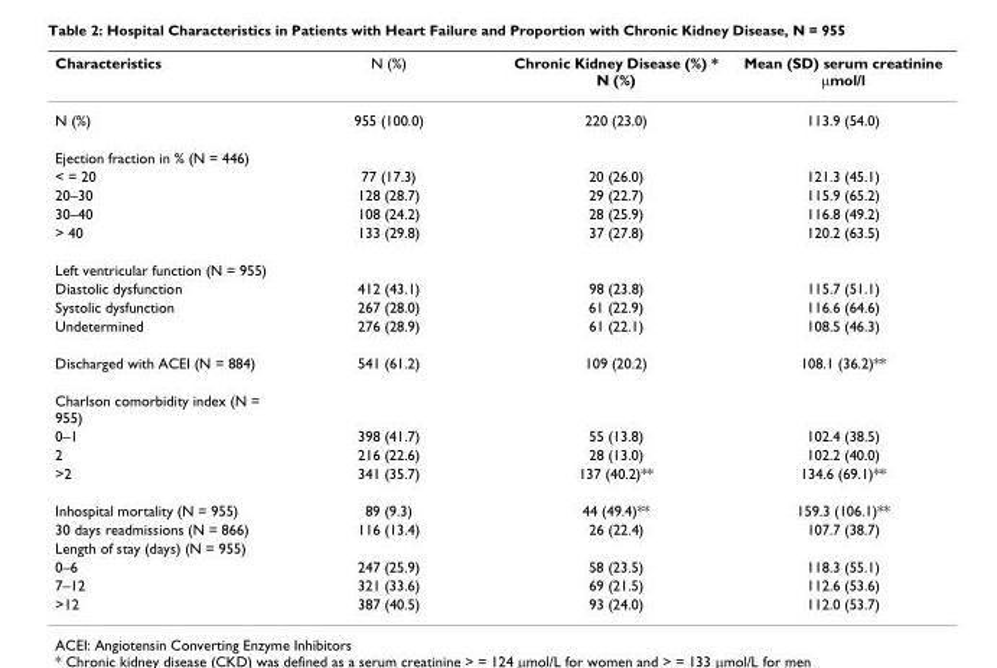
<table><thead><tr><td>Characteristics</td><td>N (%)</td><td>Chronic Kidney Disease (%) * N (%)</td><td>Mean (SD) serum creatinine µmol/l</td></tr></thead><tbody><tr><td>N (%)</td><td>955 (100.0)</td><td>220 (23.0)</td><td>113.9 (54.0)</td></tr><tr><td colspan="4">Ejection fraction in % (N = 446)</td></tr><tr><td>&lt; = 20</td><td>77 (17.3)</td><td>20 (26.0)</td><td>121.3 (45.1)</td></tr><tr><td>20–30</td><td>128 (28.7)</td><td>29 (22.7)</td><td>115.9 (65.2)</td></tr><tr><td>30–40</td><td>108 (24.2)</td><td>28 (25.9)</td><td>116.8 (49.2)</td></tr><tr><td>&gt; 40</td><td>133 (29.8)</td><td>37 (27.8)</td><td>120.2 (63.5)</td></tr><tr><td colspan="4">Left ventricular function (N = 955)</td></tr><tr><td>Diastolic dysfunction</td><td>412 (43.1)</td><td>98 (23.8)</td><td>115.7 (51.1)</td></tr><tr><td>Systolic dysfunction</td><td>267 (28.0)</td><td>61 (22.9)</td><td>116.6 (64.6)</td></tr><tr><td>Undetermined</td><td>276 (28.9)</td><td>61 (22.1)</td><td>108.5 (46.3)</td></tr><tr><td>Discharged with ACEI (N = 884)</td><td>541 (61.2)</td><td>109 (20.2)</td><td>108.1 (36.2)**</td></tr><tr><td colspan="4">Charlson comorbidity index (N = 955)</td></tr><tr><td>0–1</td><td>398 (41.7)</td><td>55 (13.8)</td><td>102.4 (38.5)</td></tr><tr><td>2</td><td>216 (22.6)</td><td>28 (13.0)</td><td>102.2 (40.0)</td></tr><tr><td>&gt;2</td><td>341 (35.7)</td><td>137 (40.2)**</td><td>134.6 (69.1)**</td></tr><tr><td>Inhospital mortality (N = 955)</td><td>89 (9.3)</td><td>44 (49.4)**</td><td>159.3 (106.1)**</td></tr><tr><td>30 days readmissions (N = 866)</td><td>116 (13.4)</td><td>26 (22.4)</td><td>107.7 (38.7)</td></tr><tr><td colspan="4">Length of stay (days) (N = 955)</td></tr><tr><td>0–6</td><td>247 (25.9)</td><td>58 (23.5)</td><td>118.3 (55.1)</td></tr><tr><td>7–12</td><td>321 (33.6)</td><td>69 (21.5)</td><td>112.6 (53.6)</td></tr><tr><td>&gt;12</td><td>387 (40.5)</td><td>93 (24.0)</td><td>112.0 (53.7)</td></tr></tbody></table>